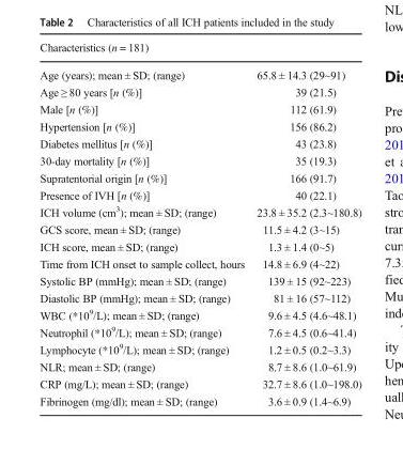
<table><thead><tr><td colspan="2">Characteristics (n = 181)</td></tr><tr><td>Age (years); mean ± SD; (range)</td><td>65.8 ± 14.3 (29~91)</td></tr></thead><tbody><tr><td>Age ≥ 80 years [n (%)]</td><td>39 (21.5)</td></tr><tr><td>Male [n (%)]</td><td>112 (61.9)</td></tr><tr><td>Hypertension [n (%)]</td><td>156 (86.2)</td></tr><tr><td>Diabetes mellitus [n (%)]</td><td>43 (23.8)</td></tr><tr><td>30-day mortality [n (%)]</td><td>35 (19.3)</td></tr><tr><td>Supratentorial origin [n (%)]</td><td>166 (91.7)</td></tr><tr><td>Presence of IVH [n (%)]</td><td>40 (22.1)</td></tr><tr><td>ICH volume (cm<sup>3</sup>); mean ± SD; (range)</td><td>23.8 ± 35.2 (2.3~180.8)</td></tr><tr><td>GCS score, mean ± SD; (range)</td><td>11.5 ± 4.2 (3~15)</td></tr><tr><td>ICH score, mean ± SD; (range)</td><td>1.3 ± 1.4 (0~5)</td></tr><tr><td>Time from ICH onset to sample collect, hours</td><td>14.8 ± 6.9 (4~22)</td></tr><tr><td>Systolic BP (mmHg); mean ± SD; (range)</td><td>139 ± 15 (92~223)</td></tr><tr><td>Diastolic BP (mmHg); mean ± SD; (range)</td><td>81 ± 16 (57~112)</td></tr><tr><td>WBC (*10<sup>9</sup>/L); mean ± SD; (range)</td><td>9.6 ± 4.5 (4.6~48.1)</td></tr><tr><td>Neutrophil (*10<sup>9</sup>/L); mean ± SD; (range)</td><td>7.6 ± 4.5 (0.6~41.4)</td></tr><tr><td>Lymphocyte (*10<sup>9</sup>/L); mean ± SD; (range)</td><td>1.2 ± 0.5 (0.2~3.3)</td></tr><tr><td>NLR; mean ± SD; (range)</td><td>8.7 ± 8.6 (1.0~61.9)</td></tr><tr><td>CRP (mg/L); mean ± SD; (range)</td><td>32.7 ± 8.6 (1.0~198.0)</td></tr><tr><td>Fibrinogen (mg/dl); mean ± SD; (range)</td><td>3.6 ± 0.9 (1.4~6.9)</td></tr></tbody></table>